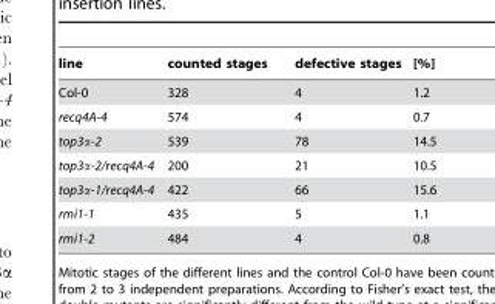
<table><thead><tr><td>line</td><td>counted stages</td><td>defective stages</td><td>[%]</td></tr></thead><tbody><tr><td>Col-0</td><td>328</td><td>4</td><td>1.2</td></tr><tr><td>recq4A-4</td><td>574</td><td>4</td><td>0.7</td></tr><tr><td>top3α-2</td><td>539</td><td>78</td><td>14.5</td></tr><tr><td>top3α-2/recq4A-4</td><td>200</td><td>21</td><td>10.5</td></tr><tr><td>top3α-1/recq4A-4</td><td>422</td><td>66</td><td>15.6</td></tr><tr><td>rmi1-1</td><td>435</td><td>5</td><td>1.1</td></tr><tr><td>rmi1-2</td><td>484</td><td>4</td><td>0.8</td></tr></tbody></table>